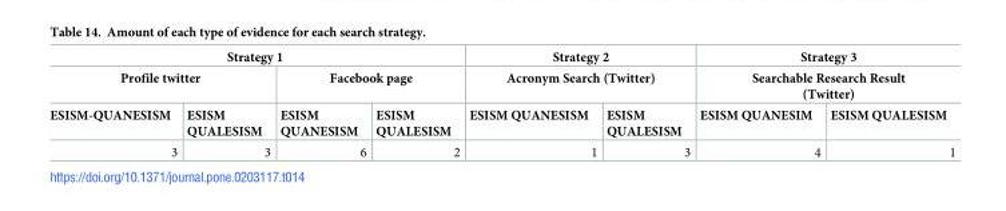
<table><thead><tr><td colspan="4">Strategy 1</td><td rowspan="2" colspan="2">Strategy 2 Acronym Search (Twitter)</td><td rowspan="2" colspan="2">Strategy 3 Searchable Research Result (Twitter)</td></tr><tr><td colspan="2">Profile twitter</td><td colspan="2">Facebook page</td></tr><tr><td>ESISM-QUANESISM</td><td>ESISM QUALESISM</td><td>ESISM QUANESISM</td><td>ESISM QUALESISM</td><td>ESISM QUANESISM</td><td>ESISM QUALESISM</td><td>ESISM QUANESIM</td><td>ESISM QUALESISM</td></tr></thead><tbody><tr><td>3</td><td>3</td><td>6</td><td>2</td><td>1</td><td>3</td><td>4</td><td>1</td></tr></tbody></table>